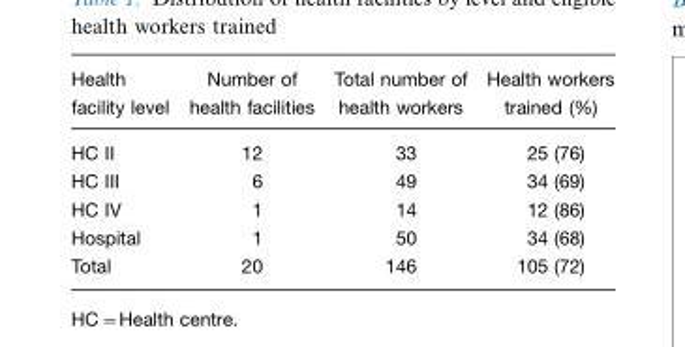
<table><thead><tr><td>Health facility level</td><td>Number of health facilities</td><td>Total number of health workers</td><td>Health workers trained (%)</td></tr></thead><tbody><tr><td>HC II</td><td>12</td><td>33</td><td>25 (76)</td></tr><tr><td>HC III</td><td>6</td><td>49</td><td>34 (69)</td></tr><tr><td>HC IV</td><td>1</td><td>14</td><td>12 (86)</td></tr><tr><td>Hospital</td><td>1</td><td>50</td><td>34 (68)</td></tr><tr><td>Total</td><td>20</td><td>146</td><td>105 (72)</td></tr></tbody></table>